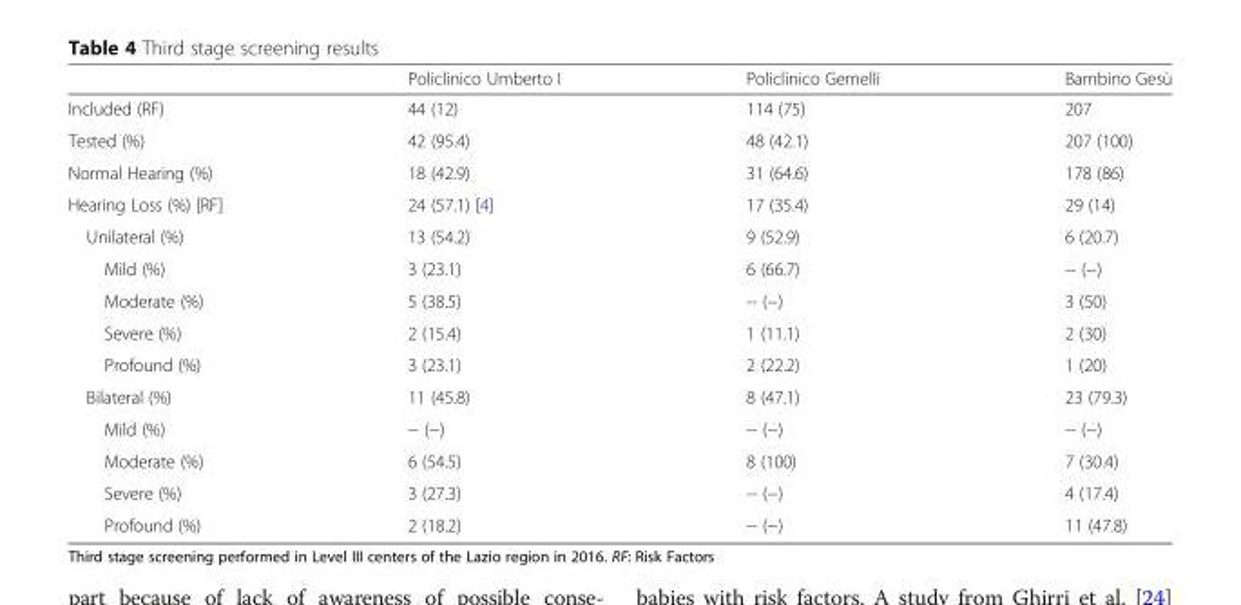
<table><thead><tr><td></td><td>Policlinico Umberto I</td><td>Policlinico Gemelli</td><td>Bambino Gesù</td></tr></thead><tbody><tr><td>Included (RF)</td><td>44 (12)</td><td>114 (75)</td><td>207</td></tr><tr><td>Tested (%)</td><td>42 (95.4)</td><td>48 (42.1)</td><td>207 (100)</td></tr><tr><td>Normal Hearing (%)</td><td>18 (42.9)</td><td>31 (64.6)</td><td>178 (86)</td></tr><tr><td>Hearing Loss (%) [RF]</td><td>24 (57.1) [4]</td><td>17 (35.4)</td><td>29 (14)</td></tr><tr><td>Unilateral (%)</td><td>13 (54.2)</td><td>9 (52.9)</td><td>6 (20.7)</td></tr><tr><td>Mild (%)</td><td>3 (23.1)</td><td>6 (66.7)</td><td>-- (−)</td></tr><tr><td>Moderate (%)</td><td>5 (38.5)</td><td>-- (−)</td><td>3 (50)</td></tr><tr><td>Severe (%)</td><td>2 (15.4)</td><td>1 (11.1)</td><td>2 (30)</td></tr><tr><td>Profound (%)</td><td>3 (23.1)</td><td>2 (22.2)</td><td>1 (20)</td></tr><tr><td>Bilateral (%)</td><td>11 (45.8)</td><td>8 (47.1)</td><td>23 (79.3)</td></tr><tr><td>Mild (%)</td><td>-- (−)</td><td>-- (−)</td><td>-- (−)</td></tr><tr><td>Moderate (%)</td><td>6 (54.5)</td><td>8 (100)</td><td>7 (30.4)</td></tr><tr><td>Severe (%)</td><td>3 (27.3)</td><td>-- (−)</td><td>4 (17.4)</td></tr><tr><td>Profound (%)</td><td>2 (18.2)</td><td>-- (−)</td><td>11 (47.8)</td></tr></tbody></table>